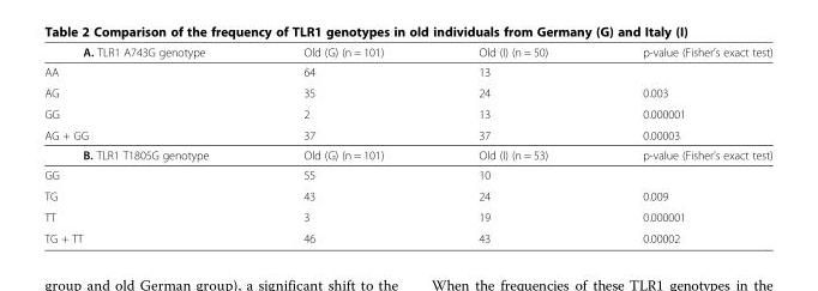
<table><tbody><tr><td>A. TLR1 A743G genotype</td><td>Old (G) (n = 101)</td><td>Old (I) (n = 50)</td><td>p-value (Fisher’s exact test)</td></tr><tr><td>AA</td><td>64</td><td>13</td><td></td></tr><tr><td>AG</td><td>35</td><td>24</td><td>0.003</td></tr><tr><td>GG</td><td>2</td><td>13</td><td>0.000001</td></tr><tr><td>AG + GG</td><td>37</td><td>37</td><td>0.00003</td></tr><tr><td>B. TLR1 T1805G genotype</td><td>Old (G) (n = 101)</td><td>Old (I) (n = 53)</td><td>p-value (Fisher’s exact test)</td></tr><tr><td>GG</td><td>55</td><td>10</td><td></td></tr><tr><td>TG</td><td>43</td><td>24</td><td>0.009</td></tr><tr><td>TT</td><td>3</td><td>19</td><td>0.000001</td></tr><tr><td>TG + TT</td><td>46</td><td>43</td><td>0.00002</td></tr></tbody></table>